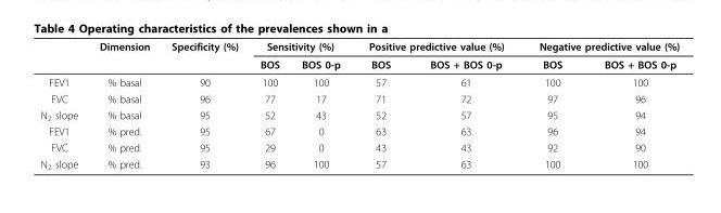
<table><thead><tr><td rowspan="2"></td><td rowspan="2">Dimension</td><td rowspan="2">Specificity (%)</td><td colspan="2">Sensitivity (%)</td><td colspan="2">Positive predictive value (%)</td><td colspan="2">Negative predictive value (%)</td></tr><tr><td>BOS</td><td>BOS 0-p</td><td>BOS</td><td>BOS + BOS 0-p</td><td>BOS</td><td>BOS + BOS 0-p</td></tr></thead><tbody><tr><td>FEV1</td><td>% basal</td><td>90</td><td>100</td><td>100</td><td>57</td><td>61</td><td>100</td><td>100</td></tr><tr><td>FVC</td><td>% basal</td><td>96</td><td>77</td><td>17</td><td>71</td><td>72</td><td>97</td><td>96</td></tr><tr><td>N<sub>2</sub> slope</td><td>% basal</td><td>95</td><td>52</td><td>43</td><td>52</td><td>57</td><td>95</td><td>94</td></tr><tr><td>FEV1</td><td>% pred.</td><td>95</td><td>67</td><td>0</td><td>63</td><td>63</td><td>96</td><td>94</td></tr><tr><td>FVC</td><td>% pred.</td><td>95</td><td>29</td><td>0</td><td>43</td><td>43</td><td>92</td><td>90</td></tr><tr><td>N<sub>2</sub> slope</td><td>% pred.</td><td>93</td><td>96</td><td>100</td><td>57</td><td>63</td><td>100</td><td>100</td></tr></tbody></table>